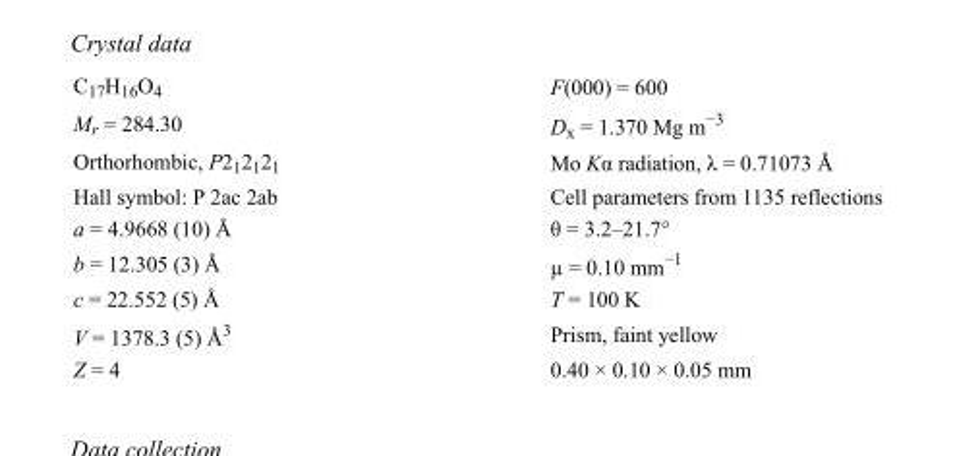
<table><tbody><tr><td>C<sub>17</sub>H<sub>16</sub>O<sub>4</sub></td><td>F(000) = 600</td></tr><tr><td>M<sub>r</sub> = 284.30</td><td>D<sub>x</sub> = 1.370 Mg m<sup>−3</sup></td></tr><tr><td>Orthorhombic, P2<sub>1</sub>2<sub>1</sub>2<sub>1</sub></td><td>Mo Kα radiation, λ = 0.71073 Å</td></tr><tr><td>Hall symbol: P 2ac 2ab</td><td>Cell parameters from 1135 reflections</td></tr><tr><td>a = 4.9668 (10) Å</td><td>θ = 3.2–21.7°</td></tr><tr><td>b = 12.305 (3) Å</td><td>µ = 0.10 mm<sup>−1</sup></td></tr><tr><td>c = 22.552 (5) Å</td><td>T = 100 K</td></tr><tr><td>V = 1378.3 (5) Å<sup>3</sup></td><td>Prism, faint yellow</td></tr><tr><td>Z = 4</td><td>0.40 × 0.10 × 0.05 mm</td></tr></tbody></table>